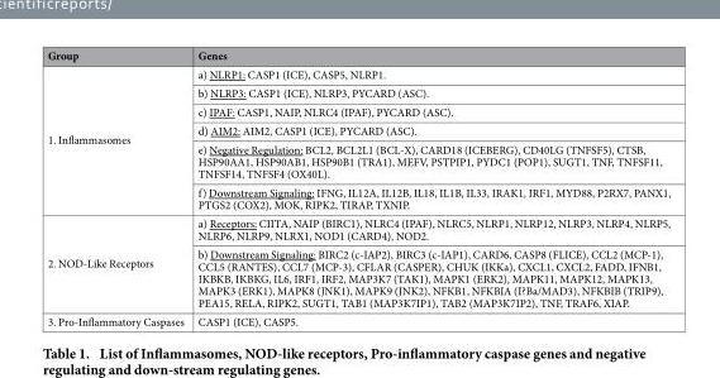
<table><thead><tr><td>Group</td><td>Genes</td></tr></thead><tbody><tr><td rowspan="6">1. Inflammasomes</td><td>a) NLRP1: CASP1 (ICE), CASP5, NLRP1.</td></tr><tr><td>b) NLRP3: CASP1 (ICE), NLRP3, PYCARD (ASC).</td></tr><tr><td>c) IPAF: CASP1, NAIP, NLRC4 (IPAF), PYCARD (ASC).</td></tr><tr><td>d) AIM2: AIM2, CASP1 (ICE), PYCARD (ASC).</td></tr><tr><td>e) Negative Regulation: BCL2, BCL2L1 (BCL-X), CARD18 (ICEBERG), CD40LG (TNFSF5), CTSB, HSP90AA1, HSP90AB1, HSP90B1 (TRA1), MEFV, PSTPIP1, PYDC1 (POP1), SUGT1, TNF, TNFSF11, TNFSF14, TNFSF4 (OX40L).</td></tr><tr><td>f) Downstream Signaling: IFNG, IL12A, IL12B, IL18, IL1B, IL33, IRAK1, IRF1, MYD88, P2RX7, PANX1, PTGS2 (COX2), MOK, RIPK2, TIRAP, TXNIP.</td></tr><tr><td rowspan="2">2. NOD-Like Receptors</td><td>a) Receptors: CIITA, NAIP (BIRC1), NLRC4 (IPAF), NLRC5, NLRP1, NLRP12, NLRP3, NLRP4, NLRP5, NLRP6, NLRP9, NLRX1, NOD1 (CARD4), NOD2.</td></tr><tr><td>b) Downstream Signaling: BIRC2 (c-IAP2), BIRC3 (c-IAP1), CARD6, CASP8 (FLICE), CCL2 (MCP-1), CCL5 (RANTES), CCL7 (MCP-3), CFLAR (CASPER), CHUK (IKKa), CXCL1, CXCL2, FADD, IFNB1, IKBKB, IKBKG, IL6, IRF1, IRF2, MAP3K7 (TAK1), MAPK1 (ERK2), MAPK11, MAPK12, MAPK13, MAPK3 (ERK1), MAPK8 (JNK1), MAPK9 (JNK2), NFKB1, NFKBIA (I?Ba/MAD3), NFKBIB (TRIP9), PEA15, RELA, RIPK2, SUGT1, TAB1 (MAP3K7IP1), TAB2 (MAP3K7IP2), TNF, TRAF6, XIAP.</td></tr><tr><td>3. Pro-Inflammatory Caspases</td><td>CASP1 (ICE), CASP5.</td></tr></tbody></table>